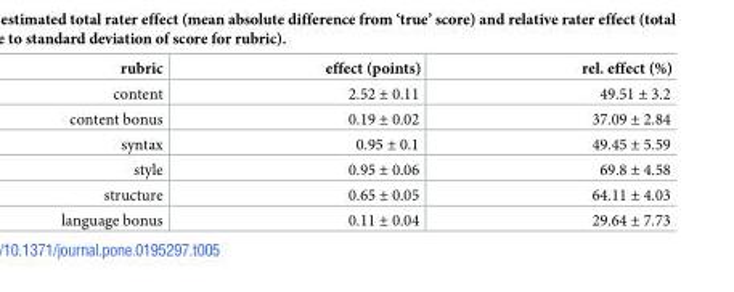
<table><thead><tr><td>rubric</td><td>effect (points)</td><td>rel. effect (%)</td></tr></thead><tbody><tr><td>content</td><td>2.52 ± 0.11</td><td>49.51 ± 3.2</td></tr><tr><td>content bonus</td><td>0.19 ± 0.02</td><td>37.09 ± 2.84</td></tr><tr><td>syntax</td><td>0.95 ± 0.1</td><td>49.45 ± 5.59</td></tr><tr><td>style</td><td>0.95 ± 0.06</td><td>69.8 ± 4.58</td></tr><tr><td>structure</td><td>0.65 ± 0.05</td><td>64.11 ± 4.03</td></tr><tr><td>language bonus</td><td>0.11 ± 0.04</td><td>29.64 ± 7.73</td></tr></tbody></table>